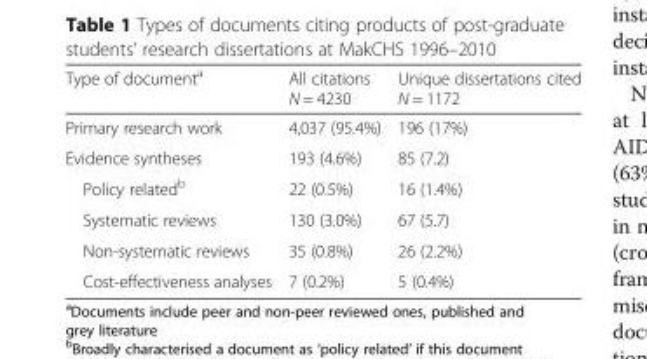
<table><thead><tr><td>Type of document<sup>a</sup></td><td>All citations N = 4230</td><td>Unique dissertations cited N = 1172</td></tr></thead><tbody><tr><td>Primary research work</td><td>4,037 (95.4%)</td><td>196 (17%)</td></tr><tr><td>Evidence syntheses</td><td>193 (4.6%)</td><td>85 (7.2)</td></tr><tr><td>Policy related<sup>b</sup></td><td>22 (0.5%)</td><td>16 (1.4%)</td></tr><tr><td>Systematic reviews</td><td>130 (3.0%)</td><td>67 (5.7)</td></tr><tr><td>Non-systematic reviews</td><td>35 (0.8%)</td><td>26 (2.2%)</td></tr><tr><td>Cost-effectiveness analyses</td><td>7 (0.2%)</td><td>5 (0.4%)</td></tr></tbody></table>